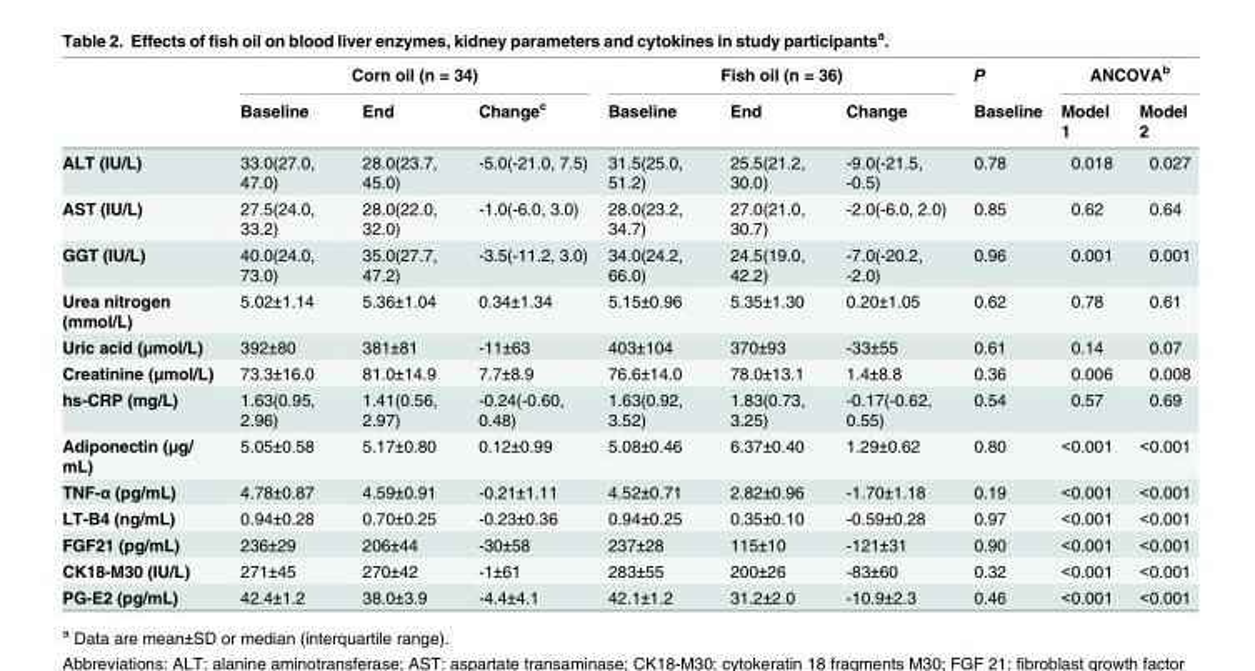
<table><thead><tr><td rowspan="2"></td><td colspan="3">Corn oil (n = 34)</td><td colspan="3">Fish oil (n = 36)</td><td rowspan="2">P Baseline</td><td colspan="2">ANCOVA<sup>b</sup></td></tr><tr><td>Baseline</td><td>End</td><td>Change<sup>c</sup></td><td>Baseline</td><td>End</td><td>Change</td><td>Model 1</td><td>Model 2</td></tr></thead><tbody><tr><td>ALT (IU/L)</td><td>33.0(27.0, 47.0)</td><td>28.0(23.7, 45.0)</td><td>-5.0(-21.0, 7.5)</td><td>31.5(25.0, 51.2)</td><td>25.5(21.2, 30.0)</td><td>-9.0(-21.5, -0.5)</td><td>0.78</td><td>0.018</td><td>0.027</td></tr><tr><td>AST (IU/L)</td><td>27.5(24.0, 33.2)</td><td>28.0(22.0, 32.0)</td><td>-1.0(-6.0, 3.0)</td><td>28.0(23.2, 34.7)</td><td>27.0(21.0, 30.7)</td><td>-2.0(-6.0, 2.0)</td><td>0.85</td><td>0.62</td><td>0.64</td></tr><tr><td>GGT (IU/L)</td><td>40.0(24.0, 73.0)</td><td>35.0(27.7, 47.2)</td><td>-3.5(-11.2, 3.0)</td><td>34.0(24.2, 66.0)</td><td>24.5(19.0, 42.2)</td><td>-7.0(-20.2, -2.0)</td><td>0.96</td><td>0.001</td><td>0.001</td></tr><tr><td>Urea nitrogen (mmol/L)</td><td>5.02±1.14</td><td>5.36±1.04</td><td>0.34±1.34</td><td>5.15±0.96</td><td>5.35±1.30</td><td>0.20±1.05</td><td>0.62</td><td>0.78</td><td>0.61</td></tr><tr><td>Uric acid (μmol/L)</td><td>392±80</td><td>381±81</td><td>-11±63</td><td>403±104</td><td>370±93</td><td>-33±55</td><td>0.61</td><td>0.14</td><td>0.07</td></tr><tr><td>Creatinine (μmol/L)</td><td>73.3±16.0</td><td>81.0±14.9</td><td>7.7±8.9</td><td>76.6±14.0</td><td>78.0±13.1</td><td>1.4±8.8</td><td>0.36</td><td>0.006</td><td>0.008</td></tr><tr><td>hs-CRP (mg/L)</td><td>1.63(0.95, 2.96)</td><td>1.41(0.56, 2.97)</td><td>-0.24(-0.60, 0.48)</td><td>1.63(0.92, 3.52)</td><td>1.83(0.73, 3.25)</td><td>-0.17(-0.62, 0.55)</td><td>0.54</td><td>0.57</td><td>0.69</td></tr><tr><td>Adiponectin (μg/ mL)</td><td>5.05±0.58</td><td>5.17±0.80</td><td>0.12±0.99</td><td>5.08±0.46</td><td>6.37±0.40</td><td>1.29±0.62</td><td>0.80</td><td>&lt;0.001</td><td>&lt;0.001</td></tr><tr><td>TNF-α (pg/mL)</td><td>4.78±0.87</td><td>4.59±0.91</td><td>-0.21±1.11</td><td>4.52±0.71</td><td>2.82±0.96</td><td>-1.70±1.18</td><td>0.19</td><td>&lt;0.001</td><td>&lt;0.001</td></tr><tr><td>LT-B4 (ng/mL)</td><td>0.94±0.28</td><td>0.70±0.25</td><td>-0.23±0.36</td><td>0.94±0.25</td><td>0.35±0.10</td><td>-0.59±0.28</td><td>0.97</td><td>&lt;0.001</td><td>&lt;0.001</td></tr><tr><td>FGF21 (pg/mL)</td><td>236±29</td><td>206±44</td><td>-30±58</td><td>237±28</td><td>115±10</td><td>-121±31</td><td>0.90</td><td>&lt;0.001</td><td>&lt;0.001</td></tr><tr><td>CK18-M30 (IU/L)</td><td>271±45</td><td>270±42</td><td>-1±61</td><td>283±55</td><td>200±26</td><td>-83±60</td><td>0.32</td><td>&lt;0.001</td><td>&lt;0.001</td></tr><tr><td>PG-E2 (pg/mL)</td><td>42.4±1.2</td><td>38.0±3.9</td><td>-4.4±4.1</td><td>42.1±1.2</td><td>31.2±2.0</td><td>-10.9±2.3</td><td>0.46</td><td>&lt;0.001</td><td>&lt;0.001</td></tr></tbody></table>